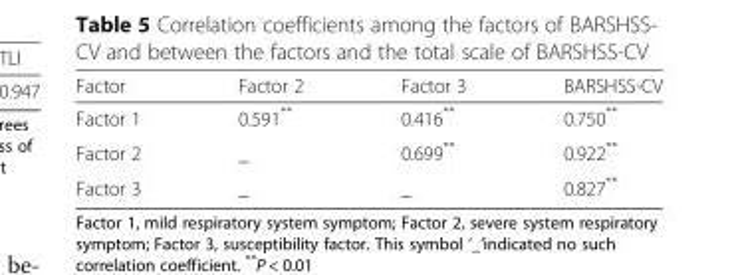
<table><thead><tr><td>Factor</td><td>Factor 2</td><td>Factor 3</td><td>BARSHSS-CV</td></tr></thead><tbody><tr><td>Factor 1</td><td>0.591**</td><td>0.416**</td><td>0.750**</td></tr><tr><td>Factor 2</td><td>_</td><td>0.699**</td><td>0.922**</td></tr><tr><td>Factor 3</td><td>_</td><td>_</td><td>0.827**</td></tr></tbody></table>